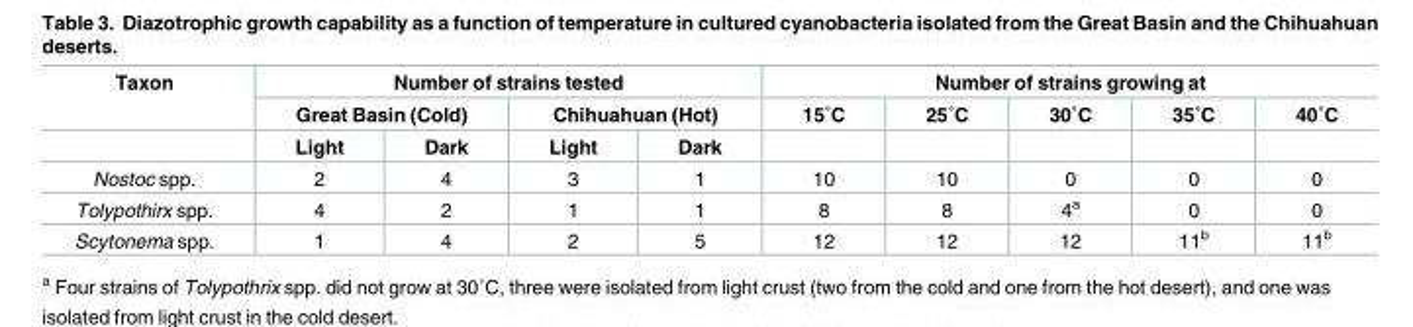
<table><thead><tr><td rowspan="3">Taxon</td><td colspan="4">Number of strains tested</td><td colspan="5">Number of strains growing at</td></tr><tr><td colspan="2">Great Basin (Cold)</td><td colspan="2">Chihuahuan (Hot)</td><td rowspan="2">15˚C</td><td rowspan="2">25˚C</td><td rowspan="2">30˚C</td><td rowspan="2">35˚C</td><td rowspan="2">40˚C</td></tr><tr><td>Light</td><td>Dark</td><td>Light</td><td>Dark</td></tr></thead><tbody><tr><td>Nostoc spp.</td><td>2</td><td>4</td><td>3</td><td>1</td><td>10</td><td>10</td><td>0</td><td>0</td><td>0</td></tr><tr><td>Tolypothirx spp.</td><td>4</td><td>2</td><td>1</td><td>1</td><td>8</td><td>8</td><td>4<sup>a</sup></td><td>0</td><td>0</td></tr><tr><td>Scytonema spp.</td><td>1</td><td>4</td><td>2</td><td>5</td><td>12</td><td>12</td><td>12</td><td>11<sup>b</sup></td><td>11<sup>b</sup></td></tr></tbody></table>